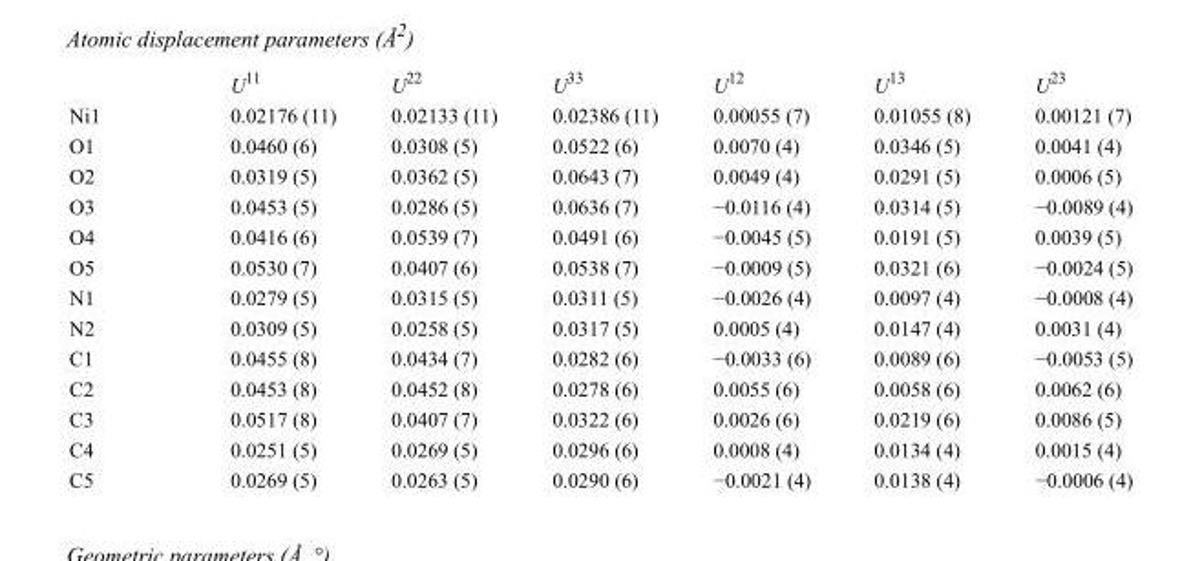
<table><thead><tr><td></td><td>U<sup>11</sup></td><td>U<sup>22</sup></td><td>U<sup>33</sup></td><td>U<sup>12</sup></td><td>U<sup>13</sup></td><td>U<sup>23</sup></td></tr></thead><tbody><tr><td>Ni1</td><td>0.02176 (11)</td><td>0.02133 (11)</td><td>0.02386 (11)</td><td>0.00055 (7)</td><td>0.01055 (8)</td><td>0.00121 (7)</td></tr><tr><td>O1</td><td>0.0460 (6)</td><td>0.0308 (5)</td><td>0.0522 (6)</td><td>0.0070 (4)</td><td>0.0346 (5)</td><td>0.0041 (4)</td></tr><tr><td>O2</td><td>0.0319 (5)</td><td>0.0362 (5)</td><td>0.0643 (7)</td><td>0.0049 (4)</td><td>0.0291 (5)</td><td>0.0006 (5)</td></tr><tr><td>O3</td><td>0.0453 (5)</td><td>0.0286 (5)</td><td>0.0636 (7)</td><td>−0.0116 (4)</td><td>0.0314 (5)</td><td>−0.0089 (4)</td></tr><tr><td>O4</td><td>0.0416 (6)</td><td>0.0539 (7)</td><td>0.0491 (6)</td><td>−0.0045 (5)</td><td>0.0191 (5)</td><td>0.0039 (5)</td></tr><tr><td>O5</td><td>0.0530 (7)</td><td>0.0407 (6)</td><td>0.0538 (7)</td><td>−0.0009 (5)</td><td>0.0321 (6)</td><td>−0.0024 (5)</td></tr><tr><td>N1</td><td>0.0279 (5)</td><td>0.0315 (5)</td><td>0.0311 (5)</td><td>−0.0026 (4)</td><td>0.0097 (4)</td><td>−0.0008 (4)</td></tr><tr><td>N2</td><td>0.0309 (5)</td><td>0.0258 (5)</td><td>0.0317 (5)</td><td>0.0005 (4)</td><td>0.0147 (4)</td><td>0.0031 (4)</td></tr><tr><td>C1</td><td>0.0455 (8)</td><td>0.0434 (7)</td><td>0.0282 (6)</td><td>−0.0033 (6)</td><td>0.0089 (6)</td><td>−0.0053 (5)</td></tr><tr><td>C2</td><td>0.0453 (8)</td><td>0.0452 (8)</td><td>0.0278 (6)</td><td>0.0055 (6)</td><td>0.0058 (6)</td><td>0.0062 (6)</td></tr><tr><td>C3</td><td>0.0517 (8)</td><td>0.0407 (7)</td><td>0.0322 (6)</td><td>0.0026 (6)</td><td>0.0219 (6)</td><td>0.0086 (5)</td></tr><tr><td>C4</td><td>0.0251 (5)</td><td>0.0269 (5)</td><td>0.0296 (6)</td><td>0.0008 (4)</td><td>0.0134 (4)</td><td>0.0015 (4)</td></tr><tr><td>C5</td><td>0.0269 (5)</td><td>0.0263 (5)</td><td>0.0290 (6)</td><td>−0.0021 (4)</td><td>0.0138 (4)</td><td>−0.0006 (4)</td></tr></tbody></table>